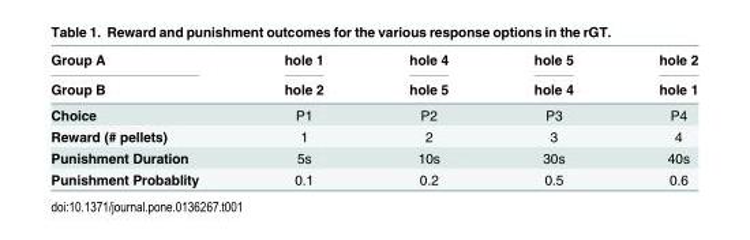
<table><thead><tr><td rowspan="2">Group A Group B</td><td rowspan="2">hole 1 hole 2</td><td rowspan="2">hole 4 hole 5</td><td rowspan="2">hole 5 hole 4</td><td rowspan="2">hole 2 hole 1</td></tr><tr></tr></thead><tbody><tr><td>Choice</td><td>P1</td><td>P2</td><td>P3</td><td>P4</td></tr><tr><td>Reward (# pellets)</td><td>1</td><td>2</td><td>3</td><td>4</td></tr><tr><td>Punishment Duration</td><td>5s</td><td>10s</td><td>30s</td><td>40s</td></tr><tr><td>Punishment Probablity</td><td>0.1</td><td>0.2</td><td>0.5</td><td>0.6</td></tr></tbody></table>